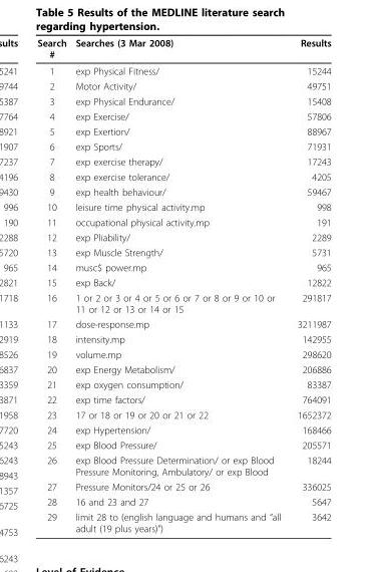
<table><thead><tr><td>Search #</td><td>Searches (3 Mar 2008)</td><td>Results</td></tr></thead><tbody><tr><td>1</td><td>exp Physical Fitness/</td><td>15244</td></tr><tr><td>2</td><td>Motor Activity/</td><td>49751</td></tr><tr><td>3</td><td>exp Physical Endurance/</td><td>15408</td></tr><tr><td>4</td><td>exp Exercise/</td><td>57806</td></tr><tr><td>5</td><td>exp Exertion/</td><td>88967</td></tr><tr><td>6</td><td>exp Sports/</td><td>71931</td></tr><tr><td>7</td><td>exp exercise therapy/</td><td>17243</td></tr><tr><td>8</td><td>exp exercise tolerance/</td><td>4205</td></tr><tr><td>9</td><td>exp health behaviour/</td><td>59467</td></tr><tr><td>10</td><td>leisure time physical activity.mp</td><td>998</td></tr><tr><td>11</td><td>occupational physical activity.mp</td><td>191</td></tr><tr><td>12</td><td>exp Pliability/</td><td>2289</td></tr><tr><td>13</td><td>exp Muscle Strength/</td><td>5731</td></tr><tr><td>14</td><td>musc$ power.mp</td><td>965</td></tr><tr><td>15</td><td>exp Back/</td><td>12822</td></tr><tr><td>16</td><td>1 or 2 or 3 or 4 or 5 or 6 or 7 or 8 or 9 or 10 or 11 or 12 or 13 or 14 or 15</td><td>291817</td></tr><tr><td>17</td><td>dose-response.mp</td><td>3211987</td></tr><tr><td>18</td><td>intensity.mp</td><td>142955</td></tr><tr><td>19</td><td>volume.mp</td><td>298620</td></tr><tr><td>20</td><td>exp Energy Metabolism/</td><td>206886</td></tr><tr><td>21</td><td>exp oxygen consumption/</td><td>83387</td></tr><tr><td>22</td><td>exp time factors/</td><td>764091</td></tr><tr><td>23</td><td>17 or 18 or 19 or 20 or 21 or 22</td><td>1652372</td></tr><tr><td>24</td><td>exp Hypertension/</td><td>168466</td></tr><tr><td>25</td><td>exp Blood Pressure/</td><td>205571</td></tr><tr><td>26</td><td>exp Blood Pressure Determination/ or exp Blood Pressure Monitoring, Ambulatory/ or exp Blood</td><td>18244</td></tr><tr><td>27</td><td>Pressure Monitors/24 or 25 or 26</td><td>336025</td></tr><tr><td>28</td><td>16 and 23 and 27</td><td>5647</td></tr><tr><td>29</td><td>limit 28 to (english language and humans and “all adult (19 plus years)”)</td><td>3642</td></tr></tbody></table>